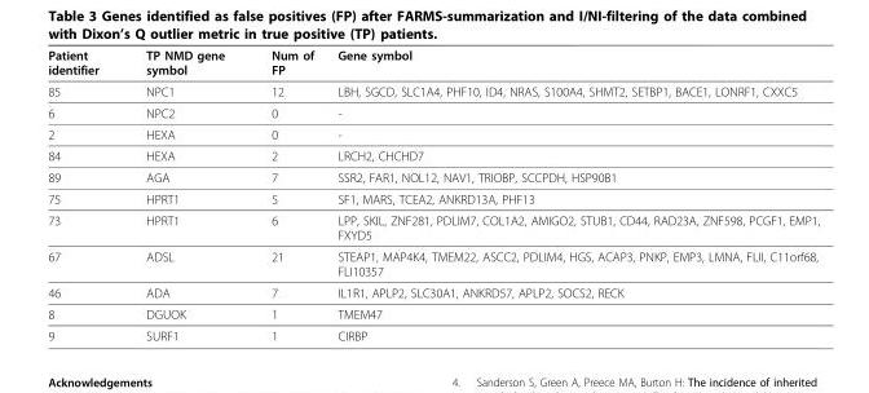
<table><thead><tr><td>Patient identifier</td><td>TP NMD gene symbol</td><td>Num of FP</td><td>Gene symbol</td></tr></thead><tbody><tr><td>85</td><td>NPC1</td><td>12</td><td>LBH, SGCD, SLC1A4, PHF10, ID4, NRAS, S100A4, SHMT2, SETBP1, BACE1, LONRF1, CXXC5</td></tr><tr><td>6</td><td>NPC2</td><td>0</td><td>-</td></tr><tr><td>2</td><td>HEXA</td><td>0</td><td>-</td></tr><tr><td>84</td><td>HEXA</td><td>2</td><td>LRCH2, CHCHD7</td></tr><tr><td>89</td><td>AGA</td><td>7</td><td>SSR2, FAR1, NOL12, NAV1, TRIOBP, SCCPDH, HSP90B1</td></tr><tr><td>75</td><td>HPRT1</td><td>5</td><td>SF1, MARS, TCEA2, ANKRD13A, PHF13</td></tr><tr><td>73</td><td>HPRT1</td><td>6</td><td>LPP, SKIL, ZNF281, PDLIM7, COL1A2, AMIGO2, STUB1, CD44, RAD23A, ZNF598, PCGF1, EMP1, FXYD5</td></tr><tr><td>67</td><td>ADSL</td><td>21</td><td>STEAP1, MAP4K4, TMEM22, ASCC2, PDLIM4, HGS, ACAP3, PNKP, EMP3, LMNA, FLII, C11orf68, FLI10357</td></tr><tr><td>46</td><td>ADA</td><td>7</td><td>IL1R1, APLP2, SLC30A1, ANKRD57, APLP2, SOCS2, RECK</td></tr><tr><td>8</td><td>DGUOK</td><td>1</td><td>TMEM47</td></tr><tr><td>9</td><td>SURF1</td><td>1</td><td>CIRBP</td></tr></tbody></table>